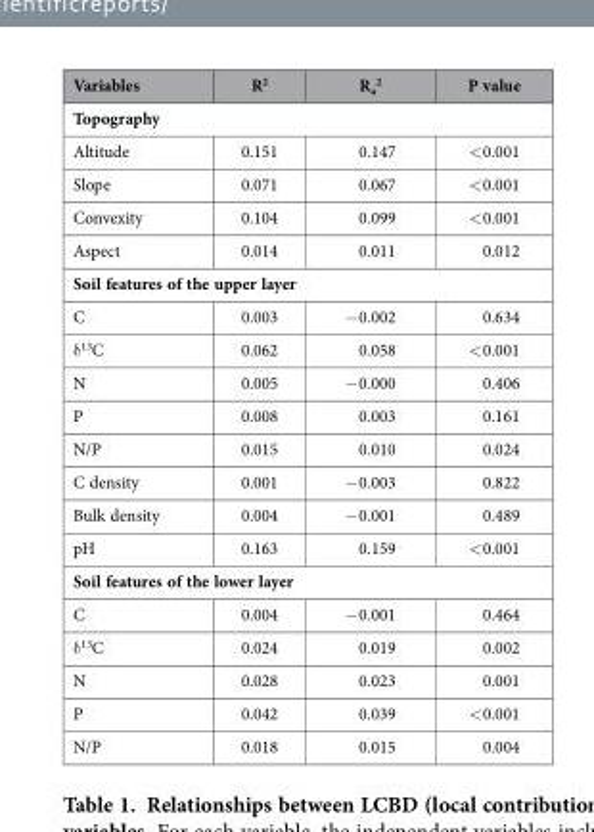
<table><thead><tr><td>Variables</td><td>R<sup>2</sup></td><td>R<sub>a</sub> <sup>2</sup></td><td>P value</td></tr></thead><tbody><tr><td colspan="4">Topography</td></tr><tr><td>Altitude</td><td>0.151</td><td>0.147</td><td>&lt; 0.001</td></tr><tr><td>Slope</td><td>0.071</td><td>0.067</td><td>&lt; 0.001</td></tr><tr><td>Convexity</td><td>0.104</td><td>0.099</td><td>&lt; 0.001</td></tr><tr><td>Aspect</td><td>0.014</td><td>0.011</td><td>0.012</td></tr><tr><td colspan="4">Soil features of the upper layer</td></tr><tr><td>C</td><td>0.003</td><td>− 0.002</td><td>0.634</td></tr><tr><td>δ <sup>13</sup>C</td><td>0.062</td><td>0.058</td><td>&lt; 0.001</td></tr><tr><td>N</td><td>0.005</td><td>− 0.000</td><td>0.406</td></tr><tr><td>P</td><td>0.008</td><td>0.003</td><td>0.161</td></tr><tr><td>N/P</td><td>0.015</td><td>0.010</td><td>0.024</td></tr><tr><td>C density</td><td>0.001</td><td>− 0.003</td><td>0.822</td></tr><tr><td>Bulk density</td><td>0.004</td><td>− 0.001</td><td>0.489</td></tr><tr><td>pH</td><td>0.163</td><td>0.159</td><td>&lt; 0.001</td></tr><tr><td colspan="4">Soil features of the lower layer</td></tr><tr><td>C</td><td>0.004</td><td>− 0.001</td><td>0.464</td></tr><tr><td>δ <sup>13</sup>C</td><td>0.024</td><td>0.019</td><td>0.002</td></tr><tr><td>N</td><td>0.028</td><td>0.023</td><td>0.001</td></tr><tr><td>P</td><td>0.042</td><td>0.039</td><td>&lt; 0.001</td></tr><tr><td>N/P</td><td>0.018</td><td>0.015</td><td>0.004</td></tr></tbody></table>